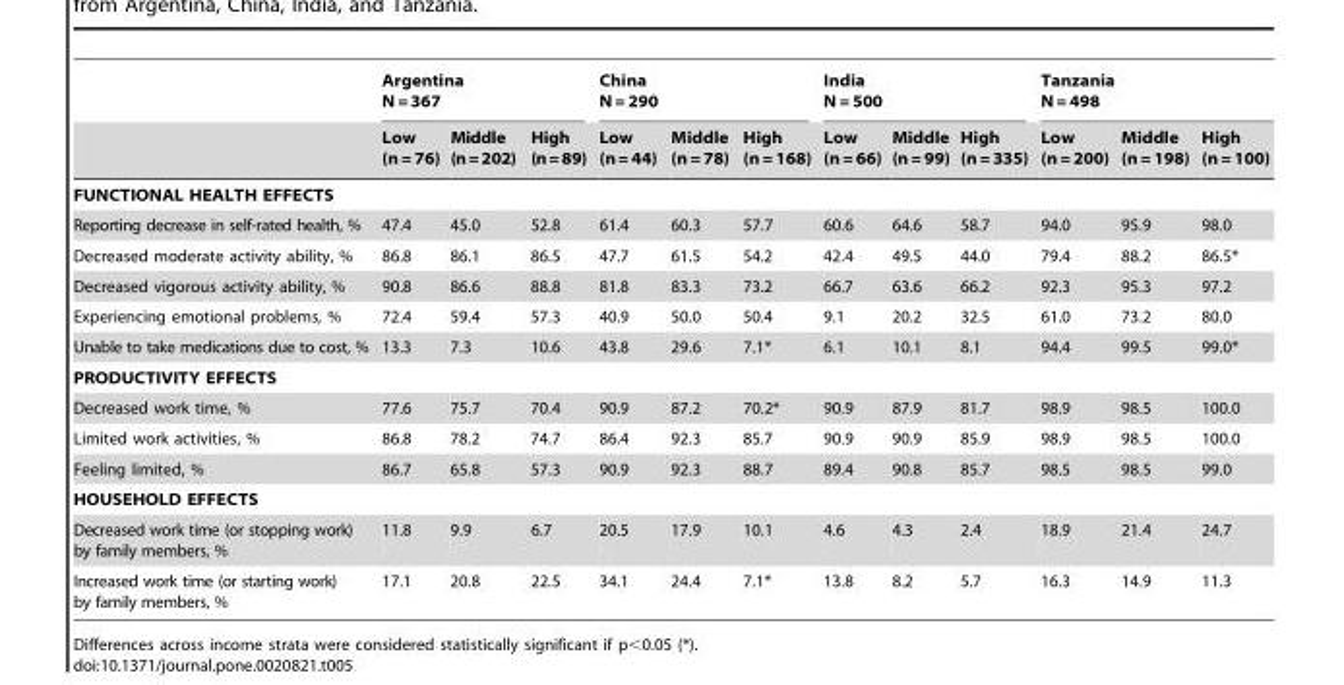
<table><thead><tr><td rowspan="2"></td><td colspan="3">Argentina N = 367</td><td colspan="3">China N = 290</td><td colspan="3">India N = 500</td><td colspan="3">Tanzania N = 498</td></tr><tr><td>Low (n = 76)</td><td>Middle (n=202)</td><td>High (n=89)</td><td>Low (n = 44)</td><td>Middle (n = 78)</td><td>High (n = 168)</td><td>Low (n = 66)</td><td>Middle (n = 99)</td><td>High (n = 335)</td><td>Low (n = 200)</td><td>Middle (n = 198)</td><td>High (n = 100)</td></tr></thead><tbody><tr><td colspan="13">FUNCTIONAL HEALTH EFFECTS</td></tr><tr><td>Reporting decrease in self-rated health, %</td><td>47.4</td><td>45.0</td><td>52.8</td><td>61.4</td><td>60.3</td><td>57.7</td><td>60.6</td><td>64.6</td><td>58.7</td><td>94.0</td><td>95.9</td><td>98.0</td></tr><tr><td>Decreased moderate activity ability, %</td><td>86.8</td><td>86.1</td><td>86.5</td><td>47.7</td><td>61.5</td><td>54.2</td><td>42.4</td><td>49.5</td><td>44.0</td><td>79.4</td><td>88.2</td><td>86.5*</td></tr><tr><td>Decreased vigorous activity ability, %</td><td>90.8</td><td>86.6</td><td>88.8</td><td>81.8</td><td>83.3</td><td>73.2</td><td>66.7</td><td>63.6</td><td>66.2</td><td>92.3</td><td>95.3</td><td>97.2</td></tr><tr><td>Experiencing emotional problems, %</td><td>72.4</td><td>59.4</td><td>57.3</td><td>40.9</td><td>50.0</td><td>50.4</td><td>9.1</td><td>20.2</td><td>32.5</td><td>61.0</td><td>73.2</td><td>80.0</td></tr><tr><td>Unable to take medications due to cost, %</td><td>13.3</td><td>7.3</td><td>10.6</td><td>43.8</td><td>29.6</td><td>7.1*</td><td>6.1</td><td>10.1</td><td>8.1</td><td>94.4</td><td>99.5</td><td>99.0*</td></tr><tr><td colspan="13">PRODUCTIVITY EFFECTS</td></tr><tr><td>Decreased work time, %</td><td>77.6</td><td>75.7</td><td>70.4</td><td>90.9</td><td>87.2</td><td>70.2*</td><td>90.9</td><td>87.9</td><td>81.7</td><td>98.9</td><td>98.5</td><td>100.0</td></tr><tr><td>Limited work activities, %</td><td>86.8</td><td>78.2</td><td>74.7</td><td>86.4</td><td>92.3</td><td>85.7</td><td>90.9</td><td>90.9</td><td>85.9</td><td>98.9</td><td>98.5</td><td>100.0</td></tr><tr><td>Feeling limited, %</td><td>86.7</td><td>65.8</td><td>57.3</td><td>90.9</td><td>92.3</td><td>88.7</td><td>89.4</td><td>90.8</td><td>85.7</td><td>98.5</td><td>98.5</td><td>99.0</td></tr><tr><td colspan="13">HOUSEHOLD EFFECTS</td></tr><tr><td>Decreased work time (or stopping work) by family members, %</td><td>11.8</td><td>9.9</td><td>6.7</td><td>20.5</td><td>17.9</td><td>10.1</td><td>4.6</td><td>4.3</td><td>2.4</td><td>18.9</td><td>21.4</td><td>24.7</td></tr><tr><td>Increased work time (or starting work) by family members, %</td><td>17.1</td><td>20.8</td><td>22.5</td><td>34.1</td><td>24.4</td><td>7.1*</td><td>13.8</td><td>8.2</td><td>5.7</td><td>16.3</td><td>14.9</td><td>11.3</td></tr></tbody></table>